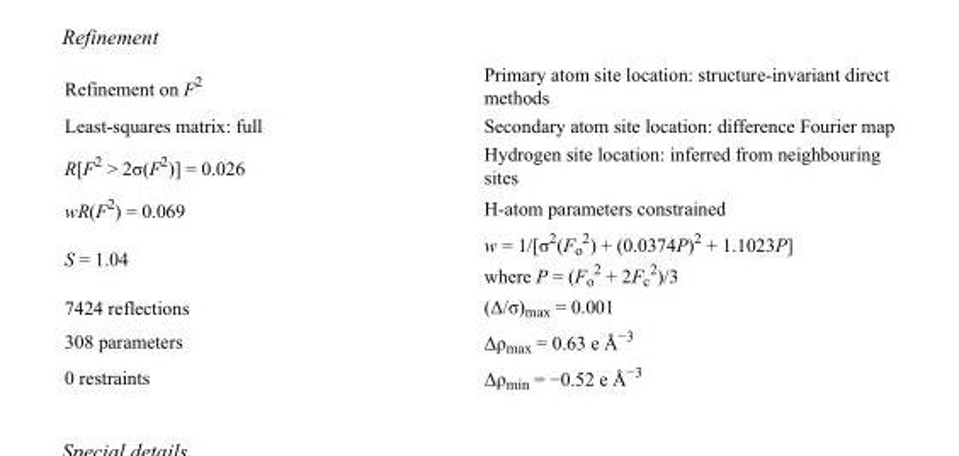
<table><tbody><tr><td>Refinement on F<sup>2</sup></td><td>Primary atom site location: structure-invariant direct methods</td></tr><tr><td>Least-squares matrix: full</td><td>Secondary atom site location: difference Fourier map</td></tr><tr><td>R[F<sup>2</sup> &gt; 2σ(F<sup>2</sup>)] = 0.026</td><td>Hydrogen site location: inferred from neighbouring sites</td></tr><tr><td>wR(F<sup>2</sup>) = 0.069</td><td>H-atom parameters constrained</td></tr><tr><td>S = 1.04</td><td>w = 1/[σ<sup>2</sup>(F<sub>o</sub> <sup>2</sup>) + (0.0374P)<sup>2</sup> + 1.1023P] where P = (F<sub>o</sub> <sup>2</sup> + 2F<sub>c</sub> <sup>2</sup>)/3</td></tr><tr><td>7424 reflections</td><td>(Δ/σ)<sub>max</sub> = 0.001</td></tr><tr><td>308 parameters</td><td>Δρ<sub>max</sub> = 0.63 e Å<sup>−3</sup></td></tr><tr><td>0 restraints</td><td>Δρ<sub>min</sub> = −0.52 e Å<sup>−3</sup></td></tr></tbody></table>